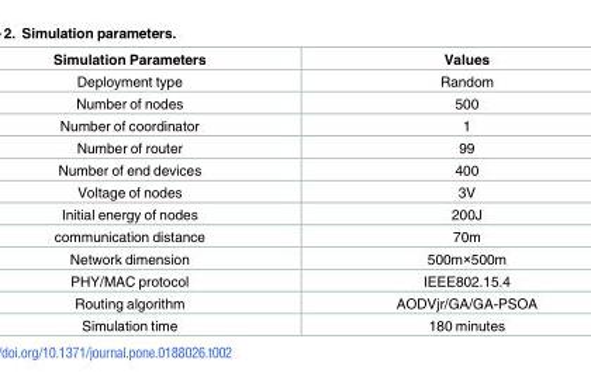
<table><thead><tr><td>Simulation Parameters</td><td>Values</td></tr></thead><tbody><tr><td>Deployment type</td><td>Random</td></tr><tr><td>Number of nodes</td><td>500</td></tr><tr><td>Number of coordinator</td><td>1</td></tr><tr><td>Number of router</td><td>99</td></tr><tr><td>Number of end devices</td><td>400</td></tr><tr><td>Voltage of nodes</td><td>3V</td></tr><tr><td>Initial energy of nodes</td><td>200J</td></tr><tr><td>communication distance</td><td>70m</td></tr><tr><td>Network dimension</td><td>500m×500m</td></tr><tr><td>PHY/MAC protocol</td><td>IEEE802.15.4</td></tr><tr><td>Routing algorithm</td><td>AODVjr/GA/GA-PSOA</td></tr><tr><td>Simulation time</td><td>180 minutes</td></tr></tbody></table>